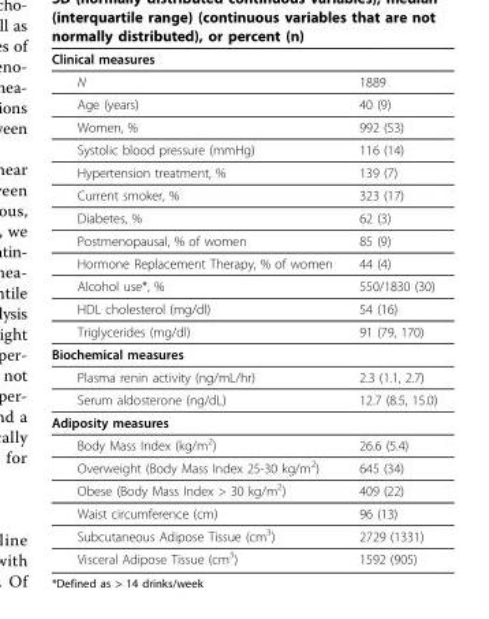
<table><thead><tr><td>Clinical measures</td><td></td></tr></thead><tbody><tr><td>N</td><td>1889</td></tr><tr><td>Age (years)</td><td>40 (9)</td></tr><tr><td>Women, %</td><td>992 (53)</td></tr><tr><td>Systolic blood pressure (mmHg)</td><td>116 (14)</td></tr><tr><td>Hypertension treatment, %</td><td>139 (7)</td></tr><tr><td>Current smoker, %</td><td>323 (17)</td></tr><tr><td>Diabetes, %</td><td>62 (3)</td></tr><tr><td>Postmenopausal, % of women</td><td>85 (9)</td></tr><tr><td>Hormone Replacement Therapy, % of women</td><td>44 (4)</td></tr><tr><td>Alcohol use*, %</td><td>550/1830 (30)</td></tr><tr><td>HDL cholesterol (mg/dl)</td><td>54 (16)</td></tr><tr><td>Triglycerides (mg/dl)</td><td>91 (79, 170)</td></tr><tr><td colspan="2">Biochemical measures</td></tr><tr><td>Plasma renin activity (ng/mL/hr)</td><td>2.3 (1.1, 2.7)</td></tr><tr><td>Serum aldosterone (ng/dL)</td><td>12.7 (8.5, 15.0)</td></tr><tr><td colspan="2">Adiposity measures</td></tr><tr><td>Body Mass Index (kg/m<sup>2</sup>)</td><td>26.6 (5.4)</td></tr><tr><td>Overweight (Body Mass Index 25-30 kg/m<sup>2</sup>)</td><td>645 (34)</td></tr><tr><td>Obese (Body Mass Index &gt; 30 kg/m<sup>2</sup>)</td><td>409 (22)</td></tr><tr><td>Waist circumference (cm)</td><td>96 (13)</td></tr><tr><td>Subcutaneous Adipose Tissue (cm<sup>3</sup>)</td><td>2729 (1331)</td></tr><tr><td>Visceral Adipose Tissue (cm<sup>3</sup>)</td><td>1592 (905)</td></tr></tbody></table>